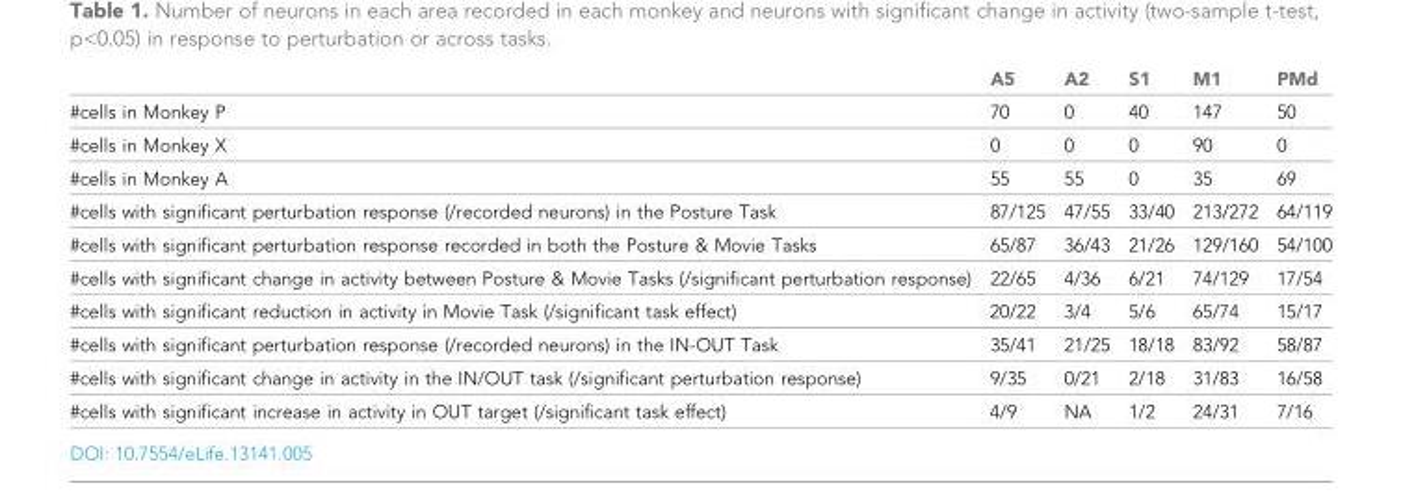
<table><thead><tr><td></td><td>A5</td><td>A2</td><td>S1</td><td>M1</td><td>PMd</td></tr></thead><tbody><tr><td>#cells in Monkey P</td><td>70</td><td>0</td><td>40</td><td>147</td><td>50</td></tr><tr><td>#cells in Monkey X</td><td>0</td><td>0</td><td>0</td><td>90</td><td>0</td></tr><tr><td>#cells in Monkey A</td><td>55</td><td>55</td><td>0</td><td>35</td><td>69</td></tr><tr><td>#cells with significant perturbation response (/recorded neurons) in the Posture Task</td><td>87/125</td><td>47/55</td><td>33/40</td><td>213/272</td><td>64/119</td></tr><tr><td>#cells with significant perturbation response recorded in both the Posture &amp; Movie Tasks</td><td>65/87</td><td>36/43</td><td>21/26</td><td>129/160</td><td>54/100</td></tr><tr><td>#cells with significant change in activity between Posture &amp; Movie Tasks (/significant perturbation response)</td><td>22/65</td><td>4/36</td><td>6/21</td><td>74/129</td><td>17/54</td></tr><tr><td>#cells with significant reduction in activity in Movie Task (/significant task effect)</td><td>20/22</td><td>3/4</td><td>5/6</td><td>65/74</td><td>15/17</td></tr><tr><td>#cells with significant perturbation response (/recorded neurons) in the IN-OUT Task</td><td>35/41</td><td>21/25</td><td>18/18</td><td>83/92</td><td>58/87</td></tr><tr><td>#cells with significant change in activity in the IN/OUT task (/significant perturbation response)</td><td>9/35</td><td>0/21</td><td>2/18</td><td>31/83</td><td>16/58</td></tr><tr><td>#cells with significant increase in activity in OUT target (/significant task effect)</td><td>4/9</td><td>NA</td><td>1/2</td><td>24/31</td><td>7/16</td></tr></tbody></table>